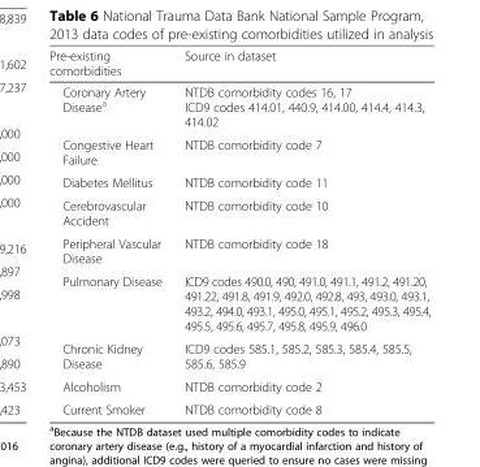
<table><thead><tr><td>Pre-existing comorbidities</td><td>Source in dataset</td></tr></thead><tbody><tr><td>Coronary Artery Disease<sup>a</sup></td><td>NTDB comorbidity codes 16, 17 ICD9 codes 414.01, 440.9, 414.00, 414.4, 414.3, 414.02</td></tr><tr><td>Congestive Heart Failure</td><td>NTDB comorbidity code 7</td></tr><tr><td>Diabetes Mellitus</td><td>NTDB comorbidity code 11</td></tr><tr><td>Cerebrovascular Accident</td><td>NTDB comorbidity code 10</td></tr><tr><td>Peripheral Vascular Disease</td><td>NTDB comorbidity code 18</td></tr><tr><td>Pulmonary Disease</td><td>ICD9 codes 490.0, 490, 491.0, 491.1, 491.2, 491.20, 491.22, 491.8, 491.9, 492.0, 492.8, 493, 493.0, 493.1, 493.2, 494.0, 493.1, 495.0, 495.1, 495.2, 495.3, 495.4, 495.5, 495.6, 495.7, 495.8, 495.9, 496.0</td></tr><tr><td>Chronic Kidney Disease</td><td>ICD9 codes 585.1, 585.2, 585.3, 585.4, 585.5, 585.6, 585.9</td></tr><tr><td>Alcoholism</td><td>NTDB comorbidity code 2</td></tr><tr><td>Current Smoker</td><td>NTDB comorbidity code 8</td></tr></tbody></table>